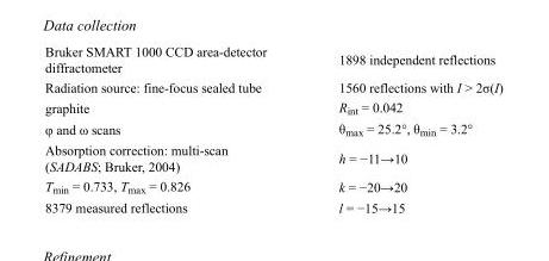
<table><tbody><tr><td>Bruker SMART 1000 CCD area-detector diffractometer</td><td>1898 independent reflections</td></tr><tr><td>Radiation source: fine-focus sealed tube</td><td>1560 reflections with I &gt; 2σ(I)</td></tr><tr><td>graphite</td><td>R<sub>int</sub> = 0.042</td></tr><tr><td>φ and ω scans</td><td>θ<sub>max</sub> = 25.2°, θ<sub>min</sub> = 3.2°</td></tr><tr><td>Absorption correction: multi-scan (SADABS; Bruker, 2004)</td><td>h = −11→10</td></tr><tr><td>T<sub>min</sub> = 0.733, T<sub>max</sub> = 0.826</td><td>k = −20→20</td></tr><tr><td>8379 measured reflections</td><td>l = −15→15</td></tr></tbody></table>